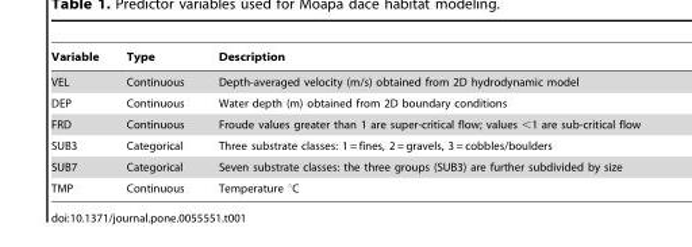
<table><thead><tr><td>Variable</td><td>Type</td><td>Description</td></tr></thead><tbody><tr><td>VEL</td><td>Continuous</td><td>Depth-averaged velocity (m/s) obtained from 2D hydrodynamic model</td></tr><tr><td>DEP</td><td>Continuous</td><td>Water depth (m) obtained from 2D boundary conditions</td></tr><tr><td>FRD</td><td>Continuous</td><td>Froude values greater than 1 are super-critical flow; values &lt;1 are sub-critical flow</td></tr><tr><td>SUB3</td><td>Categorical</td><td>Three substrate classes: 1 = fines, 2 = gravels, 3 = cobbles/boulders</td></tr><tr><td>SUB7</td><td>Categorical</td><td>Seven substrate classes: the three groups (SUB3) are further subdivided by size</td></tr><tr><td>TMP</td><td>Continuous</td><td>Temperature °C</td></tr></tbody></table>